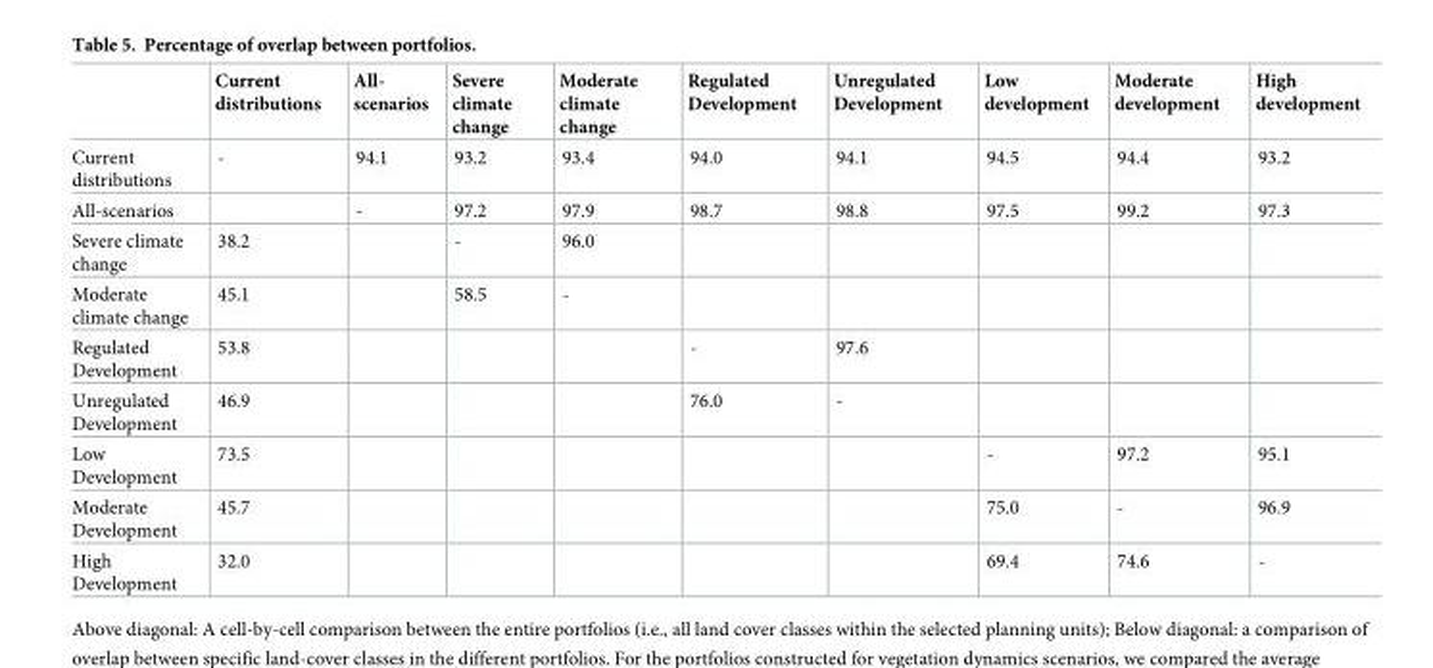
<table><thead><tr><td></td><td>Current distributions</td><td>All- scenarios</td><td>Severe climate change</td><td>Moderate climate change</td><td>Regulated Development</td><td>Unregulated Development</td><td>Low development</td><td>Moderate development</td><td>High development</td></tr></thead><tbody><tr><td>Current distributions</td><td>-</td><td>94.1</td><td>93.2</td><td>93.4</td><td>94.0</td><td>94.1</td><td>94.5</td><td>94.4</td><td>93.2</td></tr><tr><td>All-scenarios</td><td></td><td>-</td><td>97.2</td><td>97.9</td><td>98.7</td><td>98.8</td><td>97.5</td><td>99.2</td><td>97.3</td></tr><tr><td>Severe climate change</td><td>38.2</td><td></td><td>-</td><td>96.0</td><td></td><td></td><td></td><td></td><td></td></tr><tr><td>Moderate climate change</td><td>45.1</td><td></td><td>58.5</td><td>-</td><td></td><td></td><td></td><td></td><td></td></tr><tr><td>Regulated Development</td><td>53.8</td><td></td><td></td><td></td><td>-</td><td>97.6</td><td></td><td></td><td></td></tr><tr><td>Unregulated Development</td><td>46.9</td><td></td><td></td><td></td><td>76.0</td><td>-</td><td></td><td></td><td></td></tr><tr><td>Low Development</td><td>73.5</td><td></td><td></td><td></td><td></td><td></td><td>-</td><td>97.2</td><td>95.1</td></tr><tr><td>Moderate Development</td><td>45.7</td><td></td><td></td><td></td><td></td><td></td><td>75.0</td><td>-</td><td>96.9</td></tr><tr><td>High Development</td><td>32.0</td><td></td><td></td><td></td><td></td><td></td><td>69.4</td><td>74.6</td><td>-</td></tr></tbody></table>